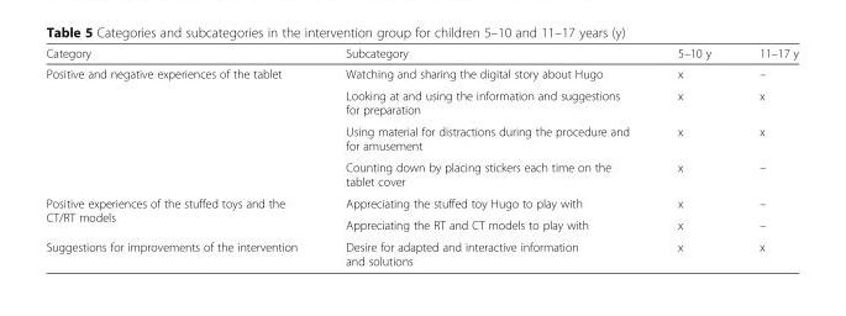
<table><thead><tr><td>Category</td><td>Subcategory</td><td>5–10 y</td><td>11–17 y</td></tr></thead><tbody><tr><td rowspan="4">Positive and negative experiences of the tablet</td><td>Watching and sharing the digital story about Hugo</td><td>x</td><td>–</td></tr><tr><td>Looking at and using the information and suggestions for preparation</td><td>x</td><td>x</td></tr><tr><td>Using material for distractions during the procedure and for amusement</td><td>x</td><td>x</td></tr><tr><td>Counting down by placing stickers each time on the tablet cover</td><td>x</td><td>–</td></tr><tr><td rowspan="2">Positive experiences of the stuffed toys and the CT/RT models</td><td>Appreciating the stuffed toy Hugo to play with</td><td>x</td><td>–</td></tr><tr><td>Appreciating the RT and CT models to play with</td><td>x</td><td>–</td></tr><tr><td>Suggestions for improvements of the intervention</td><td>Desire for adapted and interactive information and solutions</td><td>x</td><td>x</td></tr></tbody></table>